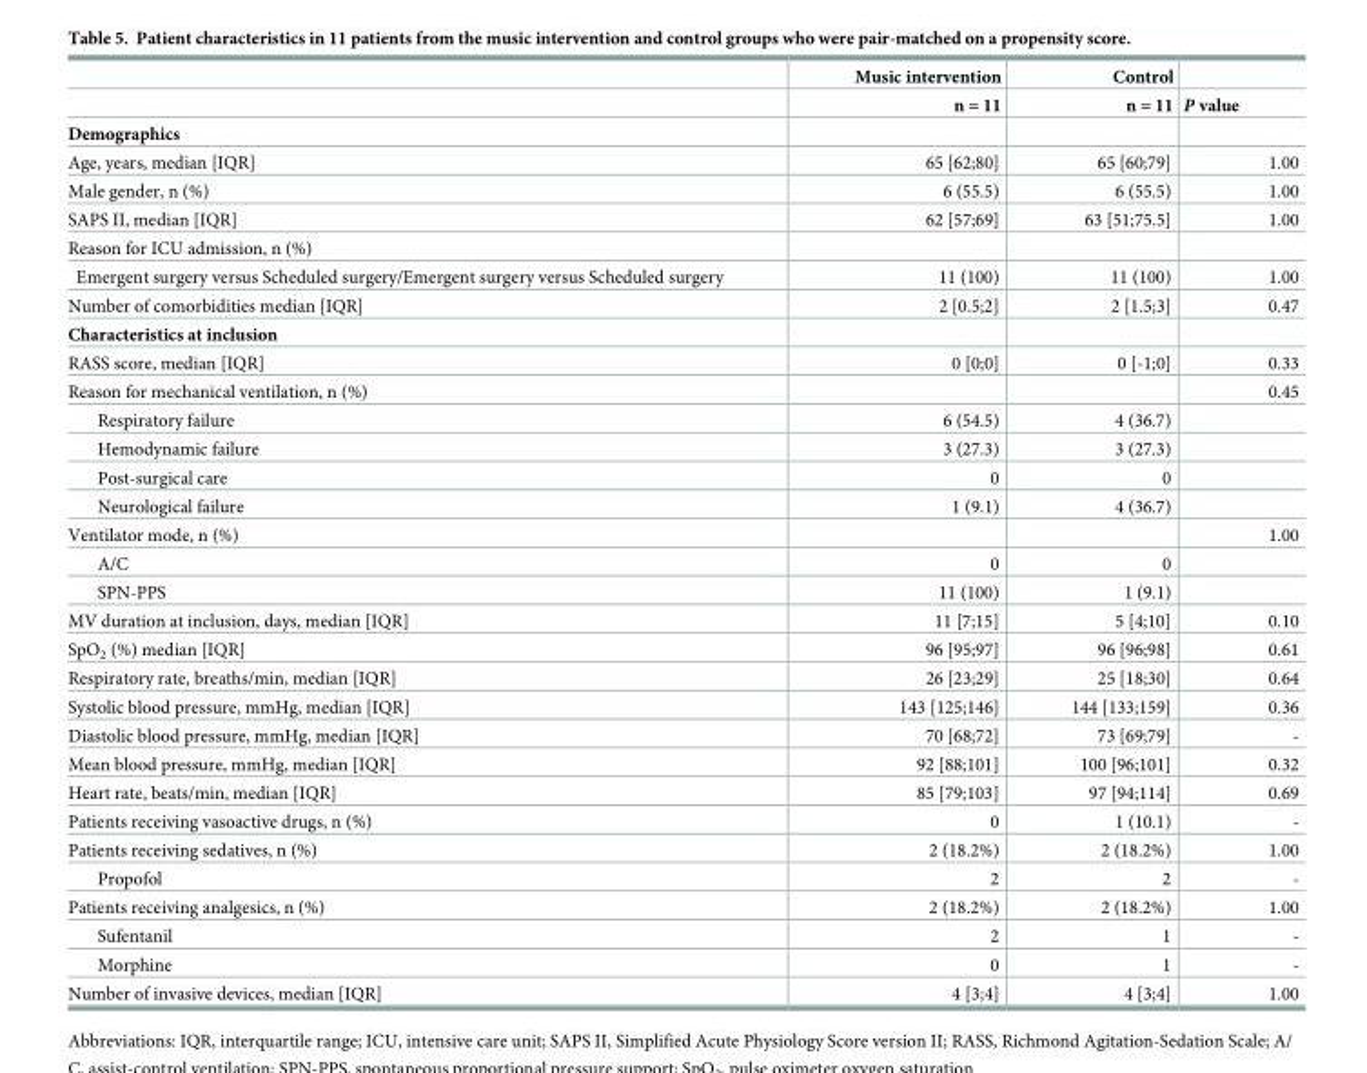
<table><thead><tr><td rowspan="2"></td><td rowspan="2">Music intervention n = 11</td><td rowspan="2">Control n = 11</td><td rowspan="2">P value</td></tr><tr></tr></thead><tbody><tr><td colspan="4">Demographics</td></tr><tr><td>Age, years, median [IQR]</td><td>65 [62;80]</td><td>65 [60;79]</td><td>1.00</td></tr><tr><td>Male gender, n (%)</td><td>6 (55.5)</td><td>6 (55.5)</td><td>1.00</td></tr><tr><td>SAPS II, median [IQR]</td><td>62 [57;69]</td><td>63 [51;75.5]</td><td>1.00</td></tr><tr><td colspan="4">Reason for ICU admission, n (%)</td></tr><tr><td>Emergent surgery versus Scheduled surgery/Emergent surgery versus Scheduled surgery</td><td>11 (100)</td><td>11 (100)</td><td>1.00</td></tr><tr><td>Number of comorbidities median [IQR]</td><td>2 [0.5;2]</td><td>2 [1.5;3]</td><td>0.47</td></tr><tr><td colspan="4">Characteristics at inclusion</td></tr><tr><td>RASS score, median [IQR]</td><td>0 [0;0]</td><td>0 [-1;0]</td><td>0.33</td></tr><tr><td>Reason for mechanical ventilation, n (%)</td><td></td><td></td><td>0.45</td></tr><tr><td>Respiratory failure</td><td>6 (54.5)</td><td>4 (36.7)</td><td></td></tr><tr><td>Hemodynamic failure</td><td>3 (27.3)</td><td>3 (27.3)</td><td></td></tr><tr><td>Post-surgical care</td><td>0</td><td>0</td><td></td></tr><tr><td>Neurological failure</td><td>1 (9.1)</td><td>4 (36.7)</td><td></td></tr><tr><td>Ventilator mode, n (%)</td><td></td><td></td><td>1.00</td></tr><tr><td>A/C</td><td>0</td><td>0</td><td></td></tr><tr><td>SPN-PPS</td><td>11 (100)</td><td>1 (9.1)</td><td></td></tr><tr><td>MV duration at inclusion, days, median [IQR]</td><td>11 [7;15]</td><td>5 [4;10]</td><td>0.10</td></tr><tr><td>SpO<sub>2</sub> (%) median [IQR]</td><td>96 [95;97]</td><td>96 [96;98]</td><td>0.61</td></tr><tr><td>Respiratory rate, breaths/min, median [IQR]</td><td>26 [23;29]</td><td>25 [18;30]</td><td>0.64</td></tr><tr><td>Systolic blood pressure, mmHg, median [IQR]</td><td>143 [125;146]</td><td>144 [133;159]</td><td>0.36</td></tr><tr><td>Diastolic blood pressure, mmHg, median [IQR]</td><td>70 [68;72]</td><td>73 [69;79]</td><td>-</td></tr><tr><td>Mean blood pressure, mmHg, median [IQR]</td><td>92 [88;101]</td><td>100 [96;101]</td><td>0.32</td></tr><tr><td>Heart rate, beats/min, median [IQR]</td><td>85 [79;103]</td><td>97 [94;114]</td><td>0.69</td></tr><tr><td>Patients receiving vasoactive drugs, n (%)</td><td>0</td><td>1 (10.1)</td><td>-</td></tr><tr><td>Patients receiving sedatives, n (%)</td><td>2 (18.2%)</td><td>2 (18.2%)</td><td>1.00</td></tr><tr><td>Propofol</td><td>2</td><td>2</td><td>-</td></tr><tr><td>Patients receiving analgesics, n (%)</td><td>2 (18.2%)</td><td>2 (18.2%)</td><td>1.00</td></tr><tr><td>Sufentanil</td><td>2</td><td>1</td><td>-</td></tr><tr><td>Morphine</td><td>0</td><td>1</td><td>-</td></tr><tr><td>Number of invasive devices, median [IQR]</td><td>4 [3;4]</td><td>4 [3;4]</td><td>1.00</td></tr></tbody></table>